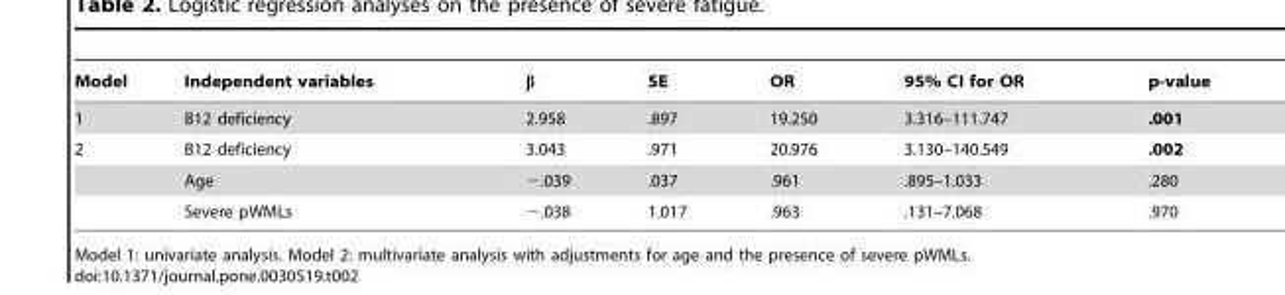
<table><thead><tr><td>Model</td><td>Independent variables</td><td>β</td><td>SE</td><td>OR</td><td>95% CI for OR</td><td>p-value</td></tr></thead><tbody><tr><td>1</td><td>B12 deficiency</td><td>2.958</td><td>.897</td><td>19.250</td><td>3.316–111.747</td><td>.001</td></tr><tr><td rowspan="3">2</td><td>B12 deficiency</td><td>3.043</td><td>.971</td><td>20.976</td><td>3.130–140.549</td><td>.002</td></tr><tr><td>Age</td><td>−.039</td><td>.037</td><td>.961</td><td>.895–1.033</td><td>.280</td></tr><tr><td>Severe pWMLs</td><td>−.038</td><td>1.017</td><td>.963</td><td>.131–7.068</td><td>.970</td></tr></tbody></table>